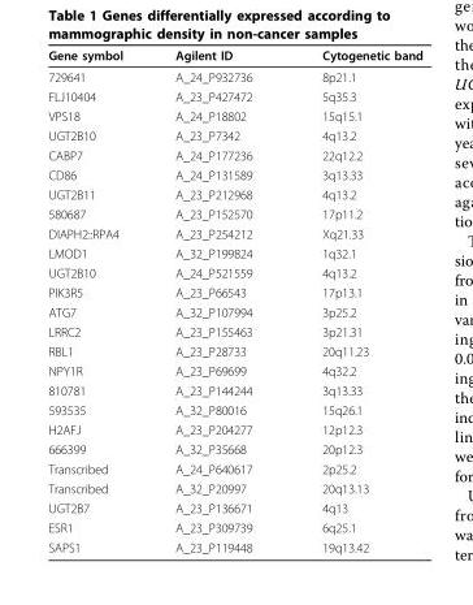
<table><thead><tr><td>Gene symbol</td><td>Agilent ID</td><td>Cytogenetic band</td></tr></thead><tbody><tr><td>729641</td><td>A_24_P932736</td><td>8p21.1</td></tr><tr><td>FLJ10404</td><td>A_23_P427472</td><td>5q35.3</td></tr><tr><td>VPS18</td><td>A_24_P18802</td><td>15q15.1</td></tr><tr><td>UGT2B10</td><td>A_23_P7342</td><td>4q13.2</td></tr><tr><td>CABP7</td><td>A_24_P177236</td><td>22q12.2</td></tr><tr><td>CD86</td><td>A_24_P131589</td><td>3q13.33</td></tr><tr><td>UGT2B11</td><td>A_23_P212968</td><td>4q13.2</td></tr><tr><td>580687</td><td>A_23_P152570</td><td>17p11.2</td></tr><tr><td>DIAPH2::RPA4</td><td>A_23_P254212</td><td>Xq21.33</td></tr><tr><td>LMOD1</td><td>A_32_P199824</td><td>1q32.1</td></tr><tr><td>UGT2B10</td><td>A_24_P521559</td><td>4q13.2</td></tr><tr><td>PIK3R5</td><td>A_23_P66543</td><td>17p13.1</td></tr><tr><td>ATG7</td><td>A_32_P107994</td><td>3p25.2</td></tr><tr><td>LRRC2</td><td>A_23_P155463</td><td>3p21.31</td></tr><tr><td>RBL1</td><td>A_23_P28733</td><td>20q11.23</td></tr><tr><td>NPY1R</td><td>A_23_P69699</td><td>4q32.2</td></tr><tr><td>810781</td><td>A_23_P144244</td><td>3q13.33</td></tr><tr><td>593535</td><td>A_32_P80016</td><td>15q26.1</td></tr><tr><td>H2AFJ</td><td>A_23_P204277</td><td>12p12.3</td></tr><tr><td>666399</td><td>A_32_P35668</td><td>20p12.3</td></tr><tr><td>Transcribed</td><td>A_24_P640617</td><td>2p25.2</td></tr><tr><td>Transcribed</td><td>A_32_P20997</td><td>20q13.13</td></tr><tr><td>UGT2B7</td><td>A_23_P136671</td><td>4q13</td></tr><tr><td>ESR1</td><td>A_23_P309739</td><td>6q25.1</td></tr><tr><td>SAPS1</td><td>A_23_P119448</td><td>19q13.42</td></tr></tbody></table>